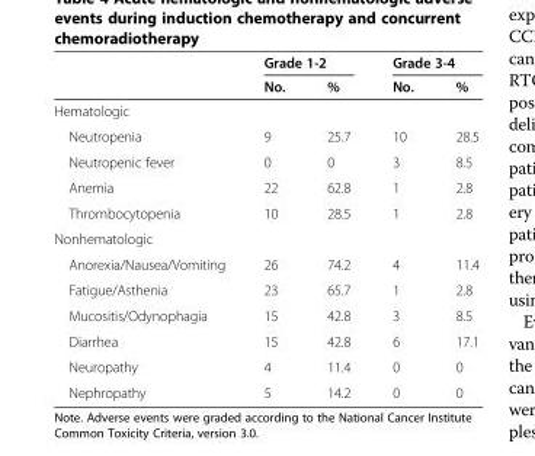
<table><thead><tr><td rowspan="2"></td><td colspan="2">Grade 1-2</td><td colspan="2">Grade 3-4</td></tr><tr><td>No.</td><td>%</td><td>No.</td><td>%</td></tr></thead><tbody><tr><td colspan="5">Hematologic</td></tr><tr><td>Neutropenia</td><td>9</td><td>25.7</td><td>10</td><td>28.5</td></tr><tr><td>Neutropenic fever</td><td>0</td><td>0</td><td>3</td><td>8.5</td></tr><tr><td>Anemia</td><td>22</td><td>62.8</td><td>1</td><td>2.8</td></tr><tr><td>Thrombocytopenia</td><td>10</td><td>28.5</td><td>1</td><td>2.8</td></tr><tr><td colspan="5">Nonhematologic</td></tr><tr><td>Anorexia/Nausea/Vomiting</td><td>26</td><td>74.2</td><td>4</td><td>11.4</td></tr><tr><td>Fatigue/Asthenia</td><td>23</td><td>65.7</td><td>1</td><td>2.8</td></tr><tr><td>Mucositis/Odynophagia</td><td>15</td><td>42.8</td><td>3</td><td>8.5</td></tr><tr><td>Diarrhea</td><td>15</td><td>42.8</td><td>6</td><td>17.1</td></tr><tr><td>Neuropathy</td><td>4</td><td>11.4</td><td>0</td><td>0</td></tr><tr><td>Nephropathy</td><td>5</td><td>14.2</td><td>0</td><td>0</td></tr></tbody></table>